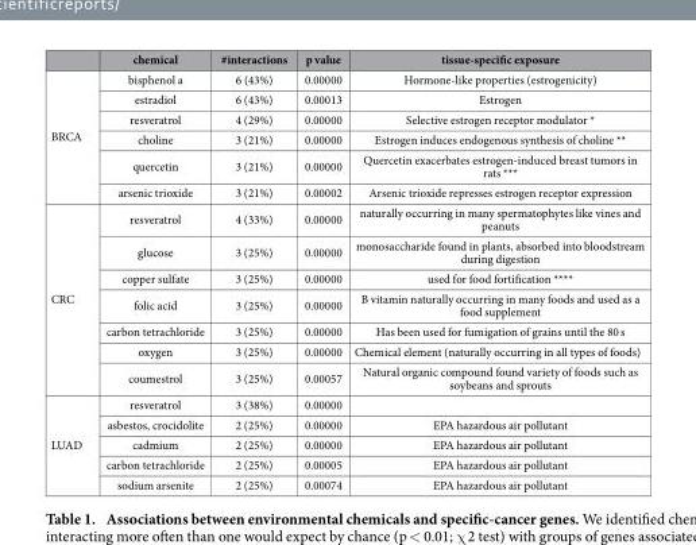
<table><thead><tr><td></td><td>chemical</td><td>#interactions</td><td>p value</td><td>tissue-specific exposure</td></tr></thead><tbody><tr><td rowspan="6">BRCA</td><td>bisphenol a</td><td>6 (43%)</td><td>0.00000</td><td>Hormone-like properties (estrogenicity)</td></tr><tr><td>estradiol</td><td>6 (43%)</td><td>0.00013</td><td>Estrogen</td></tr><tr><td>resveratrol</td><td>4 (29%)</td><td>0.00000</td><td>Selective estrogen receptor modulator *</td></tr><tr><td>choline</td><td>3 (21%)</td><td>0.00000</td><td>Estrogen induces endogenous synthesis of choline **</td></tr><tr><td>quercetin</td><td>3 (21%)</td><td>0.00000</td><td>Quercetin exacerbates estrogen-induced breast tumors in rats ***</td></tr><tr><td>arsenic trioxide</td><td>3 (21%)</td><td>0.00002</td><td>Arsenic trioxide represses estrogen receptor expression</td></tr><tr><td rowspan="7">CRC</td><td>resveratrol</td><td>4 (33%)</td><td>0.00000</td><td>naturally occurring in many spermatophytes like vines and peanuts</td></tr><tr><td>glucose</td><td>3 (25%)</td><td>0.00000</td><td>monosaccharide found in plants, absorbed into bloodstream during digestion</td></tr><tr><td>copper sulfate</td><td>3 (25%)</td><td>0.00000</td><td>used for food fortification ****</td></tr><tr><td>folic acid</td><td>3 (25%)</td><td>0.00000</td><td>B vitamin naturally occurring in many foods and used as a food supplement</td></tr><tr><td>carbon tetrachloride</td><td>3 (25%)</td><td>0.00000</td><td>Has been used for fumigation of grains until the 80 s</td></tr><tr><td>oxygen</td><td>3 (25%)</td><td>0.00000</td><td>Chemical element (naturally occurring in all types of foods)</td></tr><tr><td>coumestrol</td><td>3 (25%)</td><td>0.00057</td><td>Natural organic compound found variety of foods such as soybeans and sprouts</td></tr><tr><td rowspan="5">LUAD</td><td>resveratrol</td><td>3 (38%)</td><td>0.00000</td><td></td></tr><tr><td>asbestos, crocidolite</td><td>2 (25%)</td><td>0.00000</td><td>EPA hazardous air pollutant</td></tr><tr><td>cadmium</td><td>2 (25%)</td><td>0.00000</td><td>EPA hazardous air pollutant</td></tr><tr><td>carbon tetrachloride</td><td>2 (25%)</td><td>0.00005</td><td>EPA hazardous air pollutant</td></tr><tr><td>sodium arsenite</td><td>2 (25%)</td><td>0.00074</td><td>EPA hazardous air pollutant</td></tr></tbody></table>